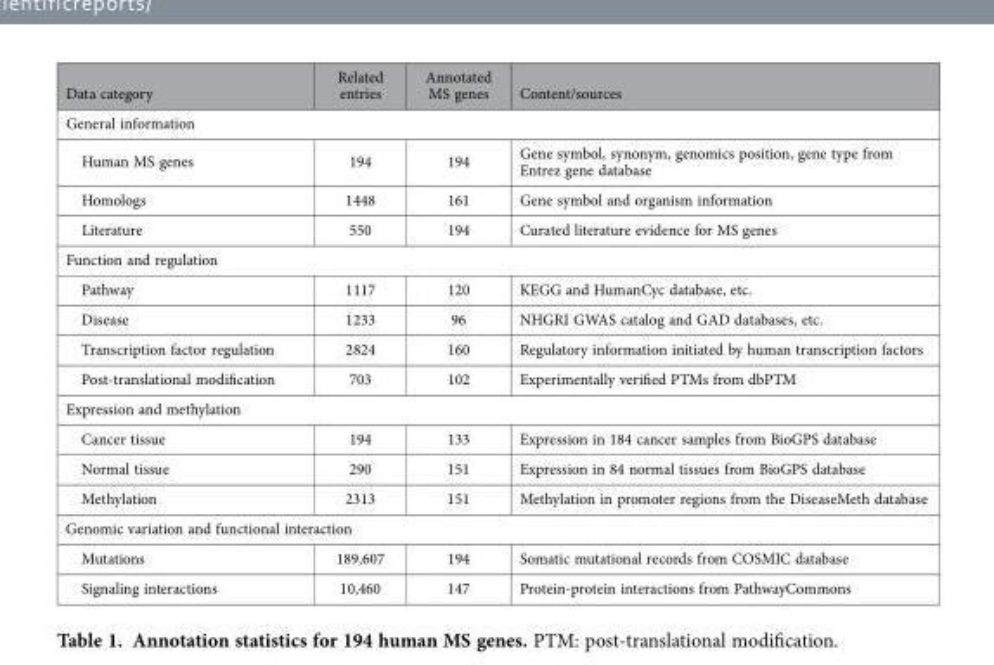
<table><thead><tr><td>Data category</td><td>Related entries</td><td>Annotated MS genes</td><td>Content/sources</td></tr></thead><tbody><tr><td colspan="4">General information</td></tr><tr><td>Human MS genes</td><td>194</td><td>194</td><td>Gene symbol, synonym, genomics position, gene type from Entrez gene database</td></tr><tr><td>Homologs</td><td>1448</td><td>161</td><td>Gene symbol and organism information</td></tr><tr><td>Literature</td><td>550</td><td>194</td><td>Curated literature evidence for MS genes</td></tr><tr><td colspan="4">Function and regulation</td></tr><tr><td>Pathway</td><td>1117</td><td>120</td><td>KEGG and HumanCyc database, etc.</td></tr><tr><td>Disease</td><td>1233</td><td>96</td><td>NHGRI GWAS catalog and GAD databases, etc.</td></tr><tr><td>Transcription factor regulation</td><td>2824</td><td>160</td><td>Regulatory information initiated by human transcription factors</td></tr><tr><td>Post-translational modification</td><td>703</td><td>102</td><td>Experimentally verified PTMs from dbPTM</td></tr><tr><td colspan="4">Expression and methylation</td></tr><tr><td>Cancer tissue</td><td>194</td><td>133</td><td>Expression in 184 cancer samples from BioGPS database</td></tr><tr><td>Normal tissue</td><td>290</td><td>151</td><td>Expression in 84 normal tissues from BioGPS database</td></tr><tr><td>Methylation</td><td>2313</td><td>151</td><td>Methylation in promoter regions from the DiseaseMeth database</td></tr><tr><td colspan="4">Genomic variation and functional interaction</td></tr><tr><td>Mutations</td><td>189,607</td><td>194</td><td>Somatic mutational records from COSMIC database</td></tr><tr><td>Signaling interactions</td><td>10,460</td><td>147</td><td>Protein-protein interactions from PathwayCommons</td></tr></tbody></table>